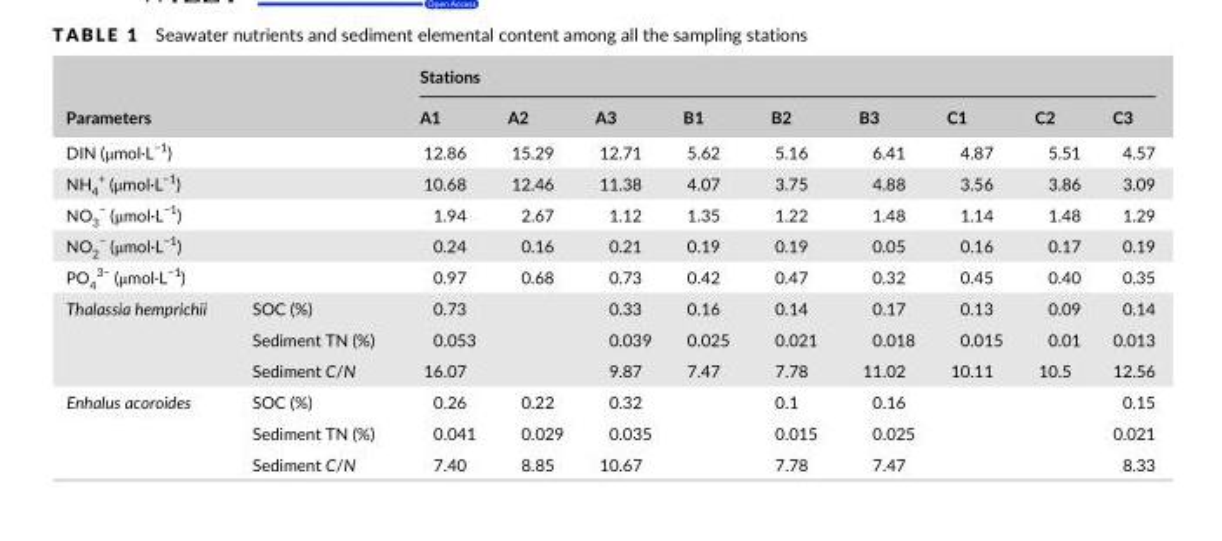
<table><thead><tr><td rowspan="2" colspan="2">Parameters</td><td colspan="9">Stations</td></tr><tr><td>A1</td><td>A2</td><td>A3</td><td>B1</td><td>B2</td><td>B3</td><td>C1</td><td>C2</td><td>C3</td></tr></thead><tbody><tr><td colspan="2">DIN (μmol·L<sup>−1</sup>)</td><td>12.86</td><td>15.29</td><td>12.71</td><td>5.62</td><td>5.16</td><td>6.41</td><td>4.87</td><td>5.51</td><td>4.57</td></tr><tr><td colspan="2">NH<sub>4</sub> <sup>+</sup> (μmol·L<sup>−1</sup>)</td><td>10.68</td><td>12.46</td><td>11.38</td><td>4.07</td><td>3.75</td><td>4.88</td><td>3.56</td><td>3.86</td><td>3.09</td></tr><tr><td colspan="2">NO<sub>3</sub> <sup>−</sup> (μmol·L<sup>−1</sup>)</td><td>1.94</td><td>2.67</td><td>1.12</td><td>1.35</td><td>1.22</td><td>1.48</td><td>1.14</td><td>1.48</td><td>1.29</td></tr><tr><td colspan="2">NO<sub>2</sub> <sup>−</sup> (μmol·L<sup>−1</sup>)</td><td>0.24</td><td>0.16</td><td>0.21</td><td>0.19</td><td>0.19</td><td>0.05</td><td>0.16</td><td>0.17</td><td>0.19</td></tr><tr><td colspan="2">PO<sub>4</sub> <sup>3−</sup> (μmol·L<sup>−1</sup>)</td><td>0.97</td><td>0.68</td><td>0.73</td><td>0.42</td><td>0.47</td><td>0.32</td><td>0.45</td><td>0.40</td><td>0.35</td></tr><tr><td rowspan="3">Thalassia hemprichii</td><td>SOC (%)</td><td>0.73</td><td></td><td>0.33</td><td>0.16</td><td>0.14</td><td>0.17</td><td>0.13</td><td>0.09</td><td>0.14</td></tr><tr><td>Sediment TN (%)</td><td>0.053</td><td></td><td>0.039</td><td>0.025</td><td>0.021</td><td>0.018</td><td>0.015</td><td>0.01</td><td>0.013</td></tr><tr><td>Sediment C/N</td><td>16.07</td><td></td><td>9.87</td><td>7.47</td><td>7.78</td><td>11.02</td><td>10.11</td><td>10.5</td><td>12.56</td></tr><tr><td rowspan="3">Enhalus acoroides</td><td>SOC (%)</td><td>0.26</td><td>0.22</td><td>0.32</td><td></td><td>0.1</td><td>0.16</td><td></td><td></td><td>0.15</td></tr><tr><td>Sediment TN (%)</td><td>0.041</td><td>0.029</td><td>0.035</td><td></td><td>0.015</td><td>0.025</td><td></td><td></td><td>0.021</td></tr><tr><td>Sediment C/N</td><td>7.40</td><td>8.85</td><td>10.67</td><td></td><td>7.78</td><td>7.47</td><td></td><td></td><td>8.33</td></tr></tbody></table>